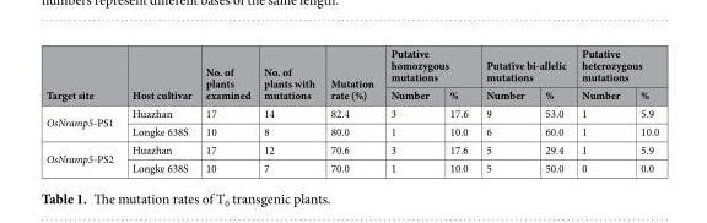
<table><thead><tr><td rowspan="2">Target site</td><td rowspan="2">Host cultivar</td><td rowspan="2">No. of plants examined</td><td rowspan="2">No. of plants with mutations</td><td rowspan="2">Mutation rate (%)</td><td colspan="2">Putative homozygous mutations</td><td colspan="2">Putative bi-allelic mutations</td><td colspan="2">Putative heterozygous mutations</td></tr><tr><td>Number</td><td>%</td><td>Number</td><td>%</td><td>Number</td><td>%</td></tr></thead><tbody><tr><td rowspan="2">OsNramp5-PS1</td><td>Huazhan</td><td>17</td><td>14</td><td>82.4</td><td>3</td><td>17.6</td><td>9</td><td>53.0</td><td>1</td><td>5.9</td></tr><tr><td>Longke 638S</td><td>10</td><td>8</td><td>80.0</td><td>1</td><td>10.0</td><td>6</td><td>60.0</td><td>1</td><td>10.0</td></tr><tr><td rowspan="2">OsNramp5-PS2</td><td>Huazhan</td><td>17</td><td>12</td><td>70.6</td><td>3</td><td>17.6</td><td>5</td><td>29.4</td><td>1</td><td>5.9</td></tr><tr><td>Longke 638S</td><td>10</td><td>7</td><td>70.0</td><td>1</td><td>10.0</td><td>5</td><td>50.0</td><td>0</td><td>0.0</td></tr></tbody></table>